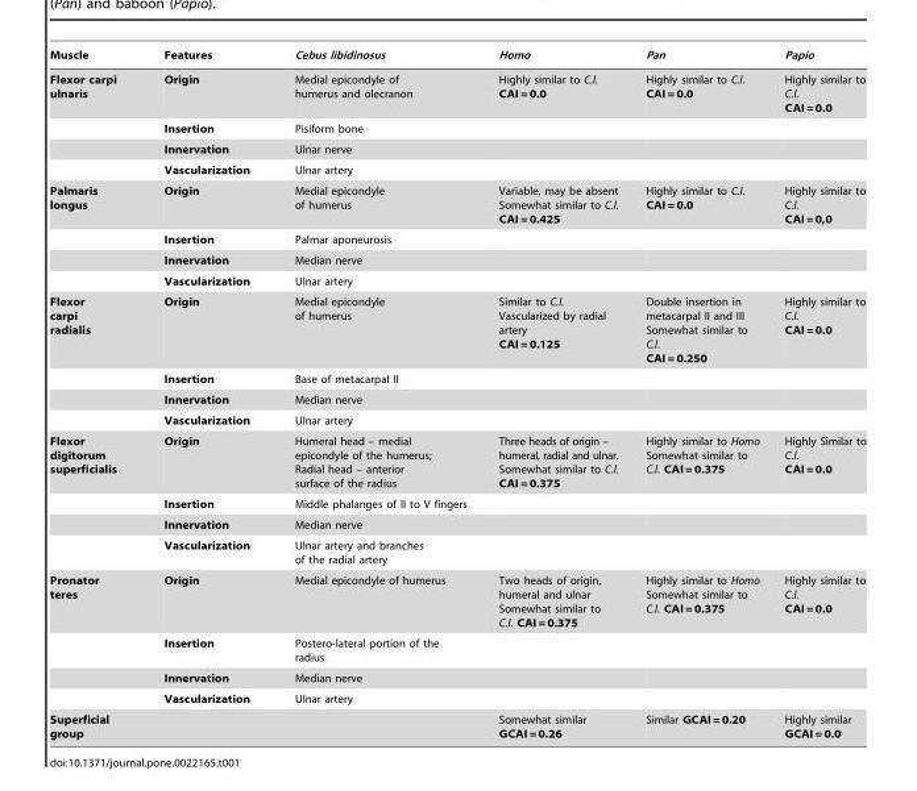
<table><thead><tr><td>Muscle</td><td>Features</td><td>Cebus libidinosus</td><td>Homo</td><td>Pan</td><td>Papio</td></tr></thead><tbody><tr><td rowspan="4">Flexor carpi ulnaris</td><td>Origin</td><td>Medial epicondyle of humerus and olecranon</td><td>Highly similar to C.l. CAI = 0.0</td><td>Highly similar to C.l. CAI = 0.0</td><td>Highly similar to C.l. CAI = 0.0</td></tr><tr><td>Insertion</td><td>Pisiform bone</td><td></td><td></td><td></td></tr><tr><td>Innervation</td><td>Ulnar nerve</td><td></td><td></td><td></td></tr><tr><td>Vascularization</td><td>Ulnar artery</td><td></td><td></td><td></td></tr><tr><td rowspan="4">Palmaris longus</td><td>Origin</td><td>Medial epicondyle of humerus</td><td>Variable, may be absent Somewhat similar to C.l. CAI = 0.425</td><td>Highly similar to C.l. CAI = 0.0</td><td>Highly similar to C.l. CAI = 0,0</td></tr><tr><td>Insertion</td><td>Palmar aponeurosis</td><td></td><td></td><td></td></tr><tr><td>Innervation</td><td>Median nerve</td><td></td><td></td><td></td></tr><tr><td>Vascularization</td><td>Ulnar artery</td><td></td><td></td><td></td></tr><tr><td rowspan="4">Flexor carpi radialis</td><td>Origin</td><td>Medial epicondyle of humerus</td><td>Similar to C.l. Vascularized by radial artery CAI = 0.125</td><td>Double insertion in metacarpal II and III Somewhat similar to C.l. CAI = 0.250</td><td>Highly similar to C.l. CAI = 0.0</td></tr><tr><td>Insertion</td><td>Base of metacarpal II</td><td></td><td></td><td></td></tr><tr><td>Innervation</td><td>Median nerve</td><td></td><td></td><td></td></tr><tr><td>Vascularization</td><td>Ulnar artery</td><td></td><td></td><td></td></tr><tr><td rowspan="4">Flexor digitorum superficialis</td><td>Origin</td><td>Humeral head – medial epicondyle of the humerus; Radial head – anterior surface of the radius</td><td>Three heads of origin – humeral, radial and ulnar. Somewhat similar to C.l. CAI = 0.375</td><td>Highly similar to Homo Somewhat similar to C.l. CAI = 0.375</td><td>Highly Similar to C.l. CAI = 0.0</td></tr><tr><td>Insertion</td><td>Middle phalanges of II to V fingers</td><td></td><td></td><td></td></tr><tr><td>Innervation</td><td>Median nerve</td><td></td><td></td><td></td></tr><tr><td>Vascularization</td><td>Ulnar artery and branches of the radial artery</td><td></td><td></td><td></td></tr><tr><td rowspan="4">Pronator teres</td><td>Origin</td><td>Medial epicondyle of humerus</td><td>Two heads of origin, humeral and ulnar Somewhat similar to C.l. CAI = 0.375</td><td>Highly similar to Homo Somewhat similar to C.l. CAI = 0.375</td><td>Highly similar to C.l. CAI = 0.0</td></tr><tr><td>Insertion</td><td>Postero-lateral portion of the radius</td><td></td><td></td><td></td></tr><tr><td>Innervation</td><td>Median nerve</td><td></td><td></td><td></td></tr><tr><td>Vascularization</td><td>Ulnar artery</td><td></td><td></td><td></td></tr><tr><td colspan="3">Superficial group</td><td>Somewhat similar GCAI = 0.26</td><td>Similar GCAI = 0.20</td><td>Highly similar GCAI = 0.0</td></tr></tbody></table>